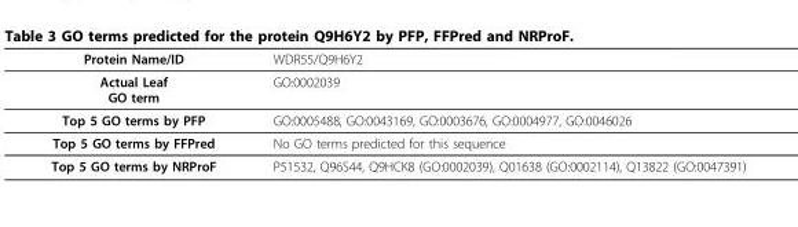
<table><thead><tr><td>Protein Name/ID</td><td>WDR55/Q9H6Y2</td></tr></thead><tbody><tr><td>Actual Leaf GO term</td><td>GO:0002039</td></tr><tr><td>Top 5 GO terms by PFP</td><td>GO:0005488, GO:0043169, GO:0003676, GO:0004977, GO:0046026</td></tr><tr><td>Top 5 GO terms by FFPred</td><td>No GO terms predicted for this sequence</td></tr><tr><td>Top 5 GO terms by NRProF</td><td>P51532, Q96S44, Q9HCK8 (GO:0002039), Q01638 (GO:0002114), Q13822 (GO:0047391)</td></tr></tbody></table>